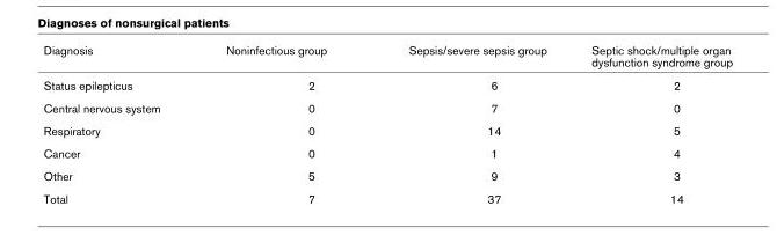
<table><thead><tr><td>Diagnosis</td><td>Noninfectious group</td><td>Sepsis/severe sepsis group</td><td>Septic shock/multiple organ dysfunction syndrome group</td></tr></thead><tbody><tr><td>Status epilepticus</td><td>2</td><td>6</td><td>2</td></tr><tr><td>Central nervous system</td><td>0</td><td>7</td><td>0</td></tr><tr><td>Respiratory</td><td>0</td><td>14</td><td>5</td></tr><tr><td>Cancer</td><td>0</td><td>1</td><td>4</td></tr><tr><td>Other</td><td>5</td><td>9</td><td>3</td></tr><tr><td>Total</td><td>7</td><td>37</td><td>14</td></tr></tbody></table>